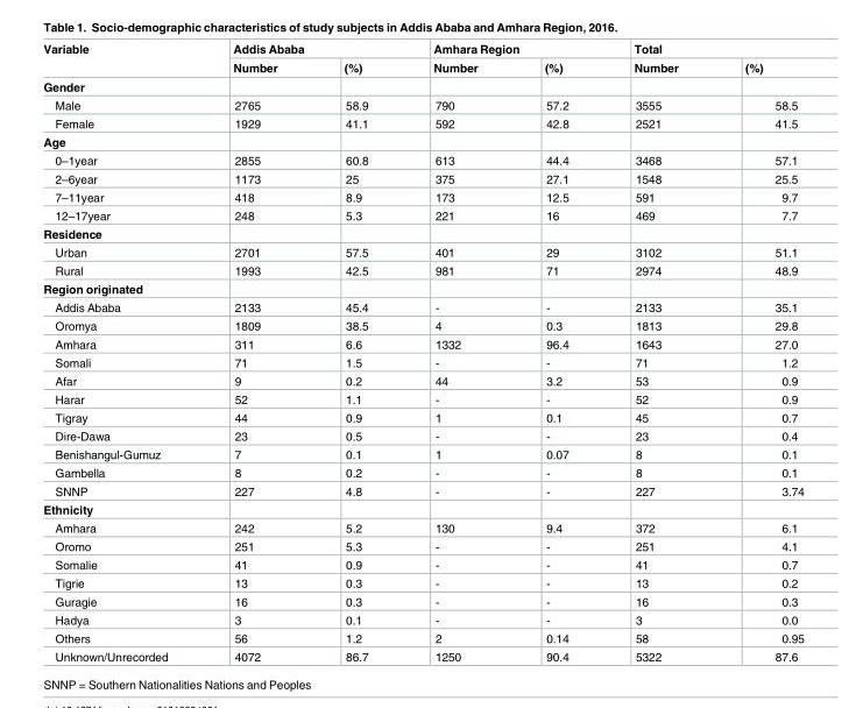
<table><thead><tr><td rowspan="2">Variable</td><td colspan="2">Addis Ababa</td><td colspan="2">Amhara Region</td><td colspan="2">Total</td></tr><tr><td>Number</td><td>(%)</td><td>Number</td><td>(%)</td><td>Number</td><td>(%)</td></tr></thead><tbody><tr><td colspan="7">Gender</td></tr><tr><td>Male</td><td>2765</td><td>58.9</td><td>790</td><td>57.2</td><td>3555</td><td>58.5</td></tr><tr><td>Female</td><td>1929</td><td>41.1</td><td>592</td><td>42.8</td><td>2521</td><td>41.5</td></tr><tr><td colspan="7">Age</td></tr><tr><td>0–1year</td><td>2855</td><td>60.8</td><td>613</td><td>44.4</td><td>3468</td><td>57.1</td></tr><tr><td>2–6year</td><td>1173</td><td>25</td><td>375</td><td>27.1</td><td>1548</td><td>25.5</td></tr><tr><td>7–11year</td><td>418</td><td>8.9</td><td>173</td><td>12.5</td><td>591</td><td>9.7</td></tr><tr><td>12–17year</td><td>248</td><td>5.3</td><td>221</td><td>16</td><td>469</td><td>7.7</td></tr><tr><td colspan="7">Residence</td></tr><tr><td>Urban</td><td>2701</td><td>57.5</td><td>401</td><td>29</td><td>3102</td><td>51.1</td></tr><tr><td>Rural</td><td>1993</td><td>42.5</td><td>981</td><td>71</td><td>2974</td><td>48.9</td></tr><tr><td colspan="7">Region originated</td></tr><tr><td>Addis Ababa</td><td>2133</td><td>45.4</td><td>-</td><td>-</td><td>2133</td><td>35.1</td></tr><tr><td>Oromya</td><td>1809</td><td>38.5</td><td>4</td><td>0.3</td><td>1813</td><td>29.8</td></tr><tr><td>Amhara</td><td>311</td><td>6.6</td><td>1332</td><td>96.4</td><td>1643</td><td>27.0</td></tr><tr><td>Somali</td><td>71</td><td>1.5</td><td>-</td><td>-</td><td>71</td><td>1.2</td></tr><tr><td>Afar</td><td>9</td><td>0.2</td><td>44</td><td>3.2</td><td>53</td><td>0.9</td></tr><tr><td>Harar</td><td>52</td><td>1.1</td><td>-</td><td>-</td><td>52</td><td>0.9</td></tr><tr><td>Tigray</td><td>44</td><td>0.9</td><td>1</td><td>0.1</td><td>45</td><td>0.7</td></tr><tr><td>Dire-Dawa</td><td>23</td><td>0.5</td><td>-</td><td>-</td><td>23</td><td>0.4</td></tr><tr><td>Benishangul-Gumuz</td><td>7</td><td>0.1</td><td>1</td><td>0.07</td><td>8</td><td>0.1</td></tr><tr><td>Gambella</td><td>8</td><td>0.2</td><td>-</td><td>-</td><td>8</td><td>0.1</td></tr><tr><td>SNNP</td><td>227</td><td>4.8</td><td>-</td><td>-</td><td>227</td><td>3.74</td></tr><tr><td colspan="7">Ethnicity</td></tr><tr><td>Amhara</td><td>242</td><td>5.2</td><td>130</td><td>9.4</td><td>372</td><td>6.1</td></tr><tr><td>Oromo</td><td>251</td><td>5.3</td><td>-</td><td>-</td><td>251</td><td>4.1</td></tr><tr><td>Somalie</td><td>41</td><td>0.9</td><td>-</td><td>-</td><td>41</td><td>0.7</td></tr><tr><td>Tigrie</td><td>13</td><td>0.3</td><td>-</td><td>-</td><td>13</td><td>0.2</td></tr><tr><td>Guragie</td><td>16</td><td>0.3</td><td>-</td><td>-</td><td>16</td><td>0.3</td></tr><tr><td>Hadya</td><td>3</td><td>0.1</td><td>-</td><td>-</td><td>3</td><td>0.0</td></tr><tr><td>Others</td><td>56</td><td>1.2</td><td>2</td><td>0.14</td><td>58</td><td>0.95</td></tr><tr><td>Unknown/Unrecorded</td><td>4072</td><td>86.7</td><td>1250</td><td>90.4</td><td>5322</td><td>87.6</td></tr></tbody></table>